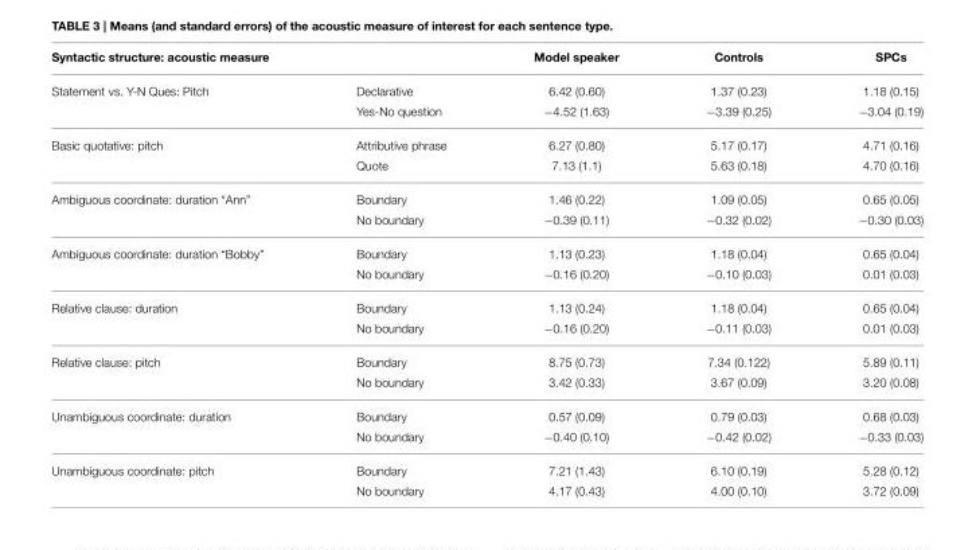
<table><thead><tr><td>Syntactic structure: acoustic measure</td><td></td><td>Model speaker</td><td>Controls</td><td>SPCs</td></tr></thead><tbody><tr><td rowspan="2">Statement vs. Y-N Ques: Pitch</td><td>Declarative</td><td>6.42 (0.60)</td><td>1.37 (0.23)</td><td>1.18 (0.15)</td></tr><tr><td>Yes-No question</td><td>−4.52 (1.63)</td><td>−3.39 (0.25)</td><td>−3.04 (0.19)</td></tr><tr><td rowspan="2">Basic quotative: pitch</td><td>Attributive phrase</td><td>6.27 (0.80)</td><td>5.17 (0.17)</td><td>4.71 (0.16)</td></tr><tr><td>Quote</td><td>7.13 (1.1)</td><td>5.63 (0.18)</td><td>4.70 (0.16)</td></tr><tr><td rowspan="2">Ambiguous coordinate: duration “Ann”</td><td>Boundary</td><td>1.46 (0.22)</td><td>1.09 (0.05)</td><td>0.65 (0.05)</td></tr><tr><td>No boundary</td><td>−0.39 (0.11)</td><td>−0.32 (0.02)</td><td>−0.30 (0.03)</td></tr><tr><td rowspan="2">Ambiguous coordinate: duration “Bobby”</td><td>Boundary</td><td>1.13 (0.23)</td><td>1.18 (0.04)</td><td>0.65 (0.04)</td></tr><tr><td>No boundary</td><td>−0.16 (0.20)</td><td>−0.10 (0.03)</td><td>0.01 (0.03)</td></tr><tr><td rowspan="2">Relative clause: duration</td><td>Boundary</td><td>1.13 (0.24)</td><td>1.18 (0.04)</td><td>0.65 (0.04)</td></tr><tr><td>No boundary</td><td>−0.16 (0.20)</td><td>−0.11 (0.03)</td><td>0.01 (0.03)</td></tr><tr><td rowspan="2">Relative clause: pitch</td><td>Boundary</td><td>8.75 (0.73)</td><td>7.34 (0.122)</td><td>5.89 (0.11)</td></tr><tr><td>No boundary</td><td>3.42 (0.33)</td><td>3.67 (0.09)</td><td>3.20 (0.08)</td></tr><tr><td rowspan="2">Unambiguous coordinate: duration</td><td>Boundary</td><td>0.57 (0.09)</td><td>0.79 (0.03)</td><td>0.68 (0.03)</td></tr><tr><td>No boundary</td><td>−0.40 (0.10)</td><td>−0.42 (0.02)</td><td>−0.33 (0.03)</td></tr><tr><td rowspan="2">Unambiguous coordinate: pitch</td><td>Boundary</td><td>7.21 (1.43)</td><td>6.10 (0.19)</td><td>5.28 (0.12)</td></tr><tr><td>No boundary</td><td>4.17 (0.43)</td><td>4.00 (0.10)</td><td>3.72 (0.09)</td></tr></tbody></table>